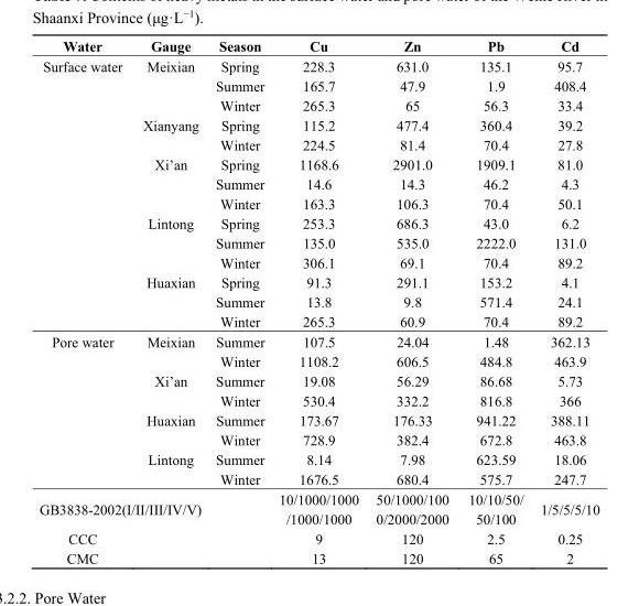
<table><thead><tr><td>Water</td><td>Gauge</td><td>Season</td><td>Cu</td><td>Zn</td><td>Pb</td><td>Cd</td></tr></thead><tbody><tr><td rowspan="14">Surface water</td><td>Meixian</td><td>Spring</td><td>228.3</td><td>631.0</td><td>135.1</td><td>95.7</td></tr><tr><td></td><td>Summer</td><td>165.7</td><td>47.9</td><td>1.9</td><td>408.4</td></tr><tr><td></td><td>Winter</td><td>265.3</td><td>65</td><td>56.3</td><td>33.4</td></tr><tr><td>Xianyang</td><td>Spring</td><td>115.2</td><td>477.4</td><td>360.4</td><td>39.2</td></tr><tr><td></td><td>Winter</td><td>224.5</td><td>81.4</td><td>70.4</td><td>27.8</td></tr><tr><td>Xi’an</td><td>Spring</td><td>1168.6</td><td>2901.0</td><td>1909.1</td><td>81.0</td></tr><tr><td></td><td>Summer</td><td>14.6</td><td>14.3</td><td>46.2</td><td>4.3</td></tr><tr><td></td><td>Winter</td><td>163.3</td><td>106.3</td><td>70.4</td><td>50.1</td></tr><tr><td>Lintong</td><td>Spring</td><td>253.3</td><td>686.3</td><td>43.0</td><td>6.2</td></tr><tr><td></td><td>Summer</td><td>135.0</td><td>535.0</td><td>2222.0</td><td>131.0</td></tr><tr><td></td><td>Winter</td><td>306.1</td><td>69.1</td><td>70.4</td><td>89.2</td></tr><tr><td>Huaxian</td><td>Spring</td><td>91.3</td><td>291.1</td><td>153.2</td><td>4.1</td></tr><tr><td></td><td>Summer</td><td>13.8</td><td>9.8</td><td>571.4</td><td>24.1</td></tr><tr><td></td><td>Winter</td><td>265.3</td><td>60.9</td><td>70.4</td><td>89.2</td></tr><tr><td rowspan="8">Pore water</td><td>Meixian</td><td>Summer</td><td>107.5</td><td>24.04</td><td>1.48</td><td>362.13</td></tr><tr><td></td><td>Winter</td><td>1108.2</td><td>606.5</td><td>484.8</td><td>463.9</td></tr><tr><td>Xi’an</td><td>Summer</td><td>19.08</td><td>56.29</td><td>86.68</td><td>5.73</td></tr><tr><td></td><td>Winter</td><td>530.4</td><td>332.2</td><td>816.8</td><td>366</td></tr><tr><td>Huaxian</td><td>Summer</td><td>173.67</td><td>176.33</td><td>941.22</td><td>388.11</td></tr><tr><td></td><td>Winter</td><td>728.9</td><td>382.4</td><td>672.8</td><td>463.8</td></tr><tr><td>Lintong</td><td>Summer</td><td>8.14</td><td>7.98</td><td>623.59</td><td>18.06</td></tr><tr><td></td><td>Winter</td><td>1676.5</td><td>680.4</td><td>575.7</td><td>247.7</td></tr><tr><td colspan="2">GB3838-2002(I/II/III/IV/V)</td><td></td><td>10/1000/1000 /1000/1000</td><td>50/1000/100 0/2000/2000</td><td>10/10/50/ 50/100</td><td>1/5/5/5/10</td></tr><tr><td>CCC</td><td></td><td></td><td>9</td><td>120</td><td>2.5</td><td>0.25</td></tr><tr><td>CMC</td><td></td><td></td><td>13</td><td>120</td><td>65</td><td>2</td></tr></tbody></table>